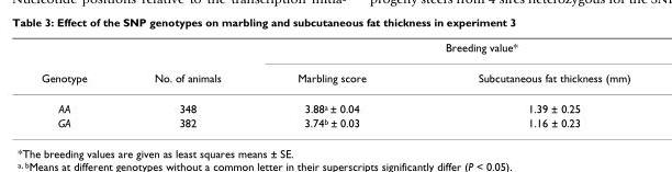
<table><thead><tr><td rowspan="2">Genotype</td><td rowspan="2">No. of animals</td><td colspan="2">Breeding value*</td></tr><tr><td>Marbling score</td><td>Subcutaneous fat thickness (mm)</td></tr></thead><tbody><tr><td>AA</td><td>348</td><td>3.88<sup>a</sup> ± 0.04</td><td>1.39 ± 0.25</td></tr><tr><td>GA</td><td>382</td><td>3.74<sup>b</sup> ± 0.03</td><td>1.16 ± 0.23</td></tr></tbody></table>